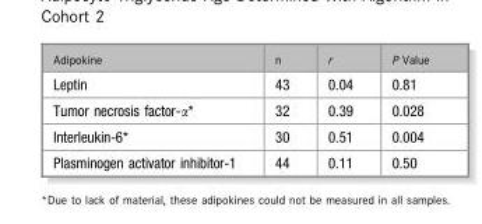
<table><thead><tr><td>Adipokine</td><td>n</td><td>r</td><td>P Value</td></tr></thead><tbody><tr><td>Leptin</td><td>43</td><td>0.04</td><td>0.81</td></tr><tr><td>Tumor necrosis factor-α*</td><td>32</td><td>0.39</td><td>0.028</td></tr><tr><td>Interleukin-6*</td><td>30</td><td>0.51</td><td>0.004</td></tr><tr><td>Plasminogen activator inhibitor-1</td><td>44</td><td>0.11</td><td>0.50</td></tr></tbody></table>